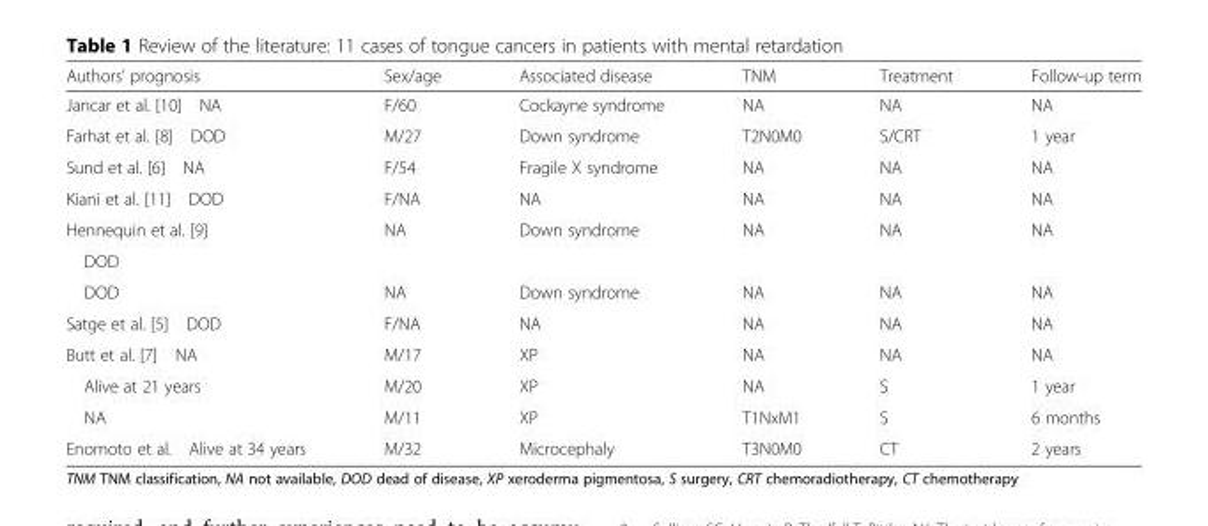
<table><thead><tr><td>Authors’ prognosis</td><td>Sex/age</td><td>Associated disease</td><td>TNM</td><td>Treatment</td><td>Follow-up term</td></tr></thead><tbody><tr><td>Jancar et al. [10] NA</td><td>F/60</td><td>Cockayne syndrome</td><td>NA</td><td>NA</td><td>NA</td></tr><tr><td>Farhat et al. [8] DOD</td><td>M/27</td><td>Down syndrome</td><td>T2N0M0</td><td>S/CRT</td><td>1 year</td></tr><tr><td>Sund et al. [6] NA</td><td>F/54</td><td>Fragile X syndrome</td><td>NA</td><td>NA</td><td>NA</td></tr><tr><td>Kiani et al. [11] DOD</td><td>F/NA</td><td>NA</td><td>NA</td><td>NA</td><td>NA</td></tr><tr><td>Hennequin et al. [9]</td><td rowspan="2">NA</td><td rowspan="2">Down syndrome</td><td rowspan="2">NA</td><td rowspan="2">NA</td><td rowspan="2">NA</td></tr><tr><td>DOD</td></tr><tr><td>DOD</td><td>NA</td><td>Down syndrome</td><td>NA</td><td>NA</td><td>NA</td></tr><tr><td>Satge et al. [5] DOD</td><td>F/NA</td><td>NA</td><td>NA</td><td>NA</td><td>NA</td></tr><tr><td>Butt et al. [7] NA</td><td>M/17</td><td>XP</td><td>NA</td><td>NA</td><td>NA</td></tr><tr><td>Alive at 21 years</td><td>M/20</td><td>XP</td><td>NA</td><td>S</td><td>1 year</td></tr><tr><td>NA</td><td>M/11</td><td>XP</td><td>T1NxM1</td><td>S</td><td>6 months</td></tr><tr><td>Enomoto et al. Alive at 34 years</td><td>M/32</td><td>Microcephaly</td><td>T3N0M0</td><td>CT</td><td>2 years</td></tr></tbody></table>